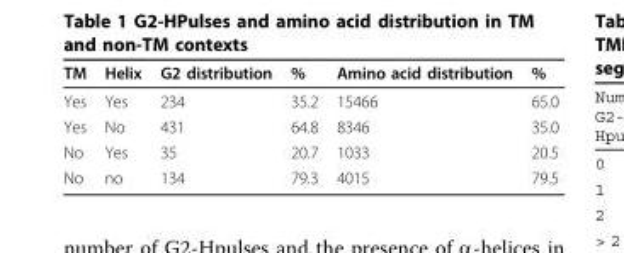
<table><thead><tr><td>TM</td><td>Helix</td><td>G2 distribution</td><td>%</td><td>Amino acid distribution</td><td>%</td></tr></thead><tbody><tr><td>Yes</td><td>Yes</td><td>234</td><td>35.2</td><td>15466</td><td>65.0</td></tr><tr><td>Yes</td><td>No</td><td>431</td><td>64.8</td><td>8346</td><td>35.0</td></tr><tr><td>No</td><td>Yes</td><td>35</td><td>20.7</td><td>1033</td><td>20.5</td></tr><tr><td>No</td><td>no</td><td>134</td><td>79.3</td><td>4015</td><td>79.5</td></tr></tbody></table>